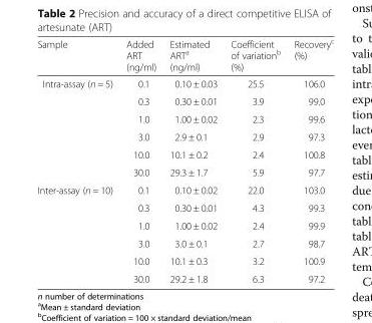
<table><thead><tr><td>Sample</td><td>Added ART (ng/ml)</td><td>Estimated ART<sup>a</sup> (ng/ml)</td><td>Coefficient of variation<sup>b</sup> (%)</td><td>Recovery<sup>c</sup> (%)</td></tr></thead><tbody><tr><td rowspan="6">Intra-assay (n = 5)</td><td>0.1</td><td>0.10 ± 0.03</td><td>25.5</td><td>106.0</td></tr><tr><td>0.3</td><td>0.30 ± 0.01</td><td>3.9</td><td>99.0</td></tr><tr><td>1.0</td><td>1.00 ± 0.02</td><td>2.3</td><td>99.6</td></tr><tr><td>3.0</td><td>2.9 ± 0.1</td><td>2.9</td><td>97.3</td></tr><tr><td>10.0</td><td>10.1 ± 0.2</td><td>2.4</td><td>100.8</td></tr><tr><td>30.0</td><td>29.3 ± 1.7</td><td>5.9</td><td>97.7</td></tr><tr><td rowspan="6">Inter-assay (n = 10)</td><td>0.1</td><td>0.10 ± 0.02</td><td>22.0</td><td>103.0</td></tr><tr><td>0.3</td><td>0.30 ± 0.01</td><td>4.3</td><td>99.3</td></tr><tr><td>1.0</td><td>1.00 ± 0.02</td><td>2.4</td><td>99.9</td></tr><tr><td>3.0</td><td>3.0 ± 0.1</td><td>2.7</td><td>98.7</td></tr><tr><td>10.0</td><td>10.1 ± 0.3</td><td>3.2</td><td>100.9</td></tr><tr><td>30.0</td><td>29.2 ± 1.8</td><td>6.3</td><td>97.2</td></tr></tbody></table>